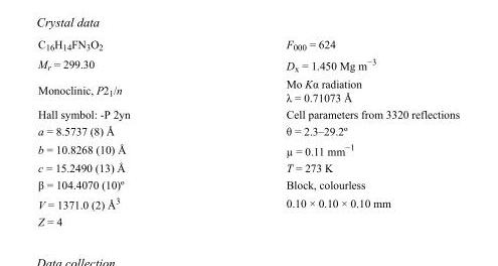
<table><tbody><tr><td>C<sub>16</sub>H<sub>14</sub>FN<sub>3</sub>O<sub>2</sub></td><td>F000 = 624</td></tr><tr><td>M<sub>r</sub> = 299.30</td><td>D<sub>x</sub> = 1.450 Mg m<sup>−3</sup></td></tr><tr><td>Monoclinic, P2<sub>1</sub>/n</td><td>Mo Kα radiation λ = 0.71073 Å</td></tr><tr><td>Hall symbol: -P 2yn</td><td>Cell parameters from 3320 reflections</td></tr><tr><td>a = 8.5737 (8) Å</td><td>θ = 2.3–29.2º</td></tr><tr><td>b = 10.8268 (10) Å</td><td>µ = 0.11 mm<sup>−1</sup></td></tr><tr><td>c = 15.2490 (13) Å</td><td>T = 273 K</td></tr><tr><td>β = 104.4070 (10)º</td><td>Block, colourless</td></tr><tr><td>V = 1371.0 (2) Å<sup>3</sup></td><td>0.10 × 0.10 × 0.10 mm</td></tr><tr><td>Z = 4</td><td></td></tr></tbody></table>